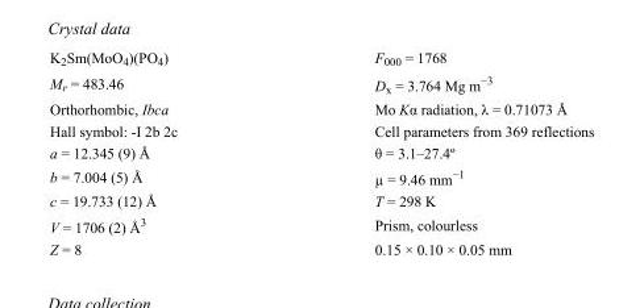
<table><tbody><tr><td>K<sub>2</sub>Sm(MoO<sub>4</sub>)(PO<sub>4</sub>)</td><td>F000 = 1768</td></tr><tr><td>M<sub>r</sub> = 483.46</td><td>D<sub>x</sub> = 3.764 Mg m<sup>−3</sup></td></tr><tr><td>Orthorhombic, Ibca</td><td>Mo Kα radiation, λ = 0.71073 Å</td></tr><tr><td>Hall symbol: -I 2b 2c</td><td>Cell parameters from 369 reflections</td></tr><tr><td>a = 12.345 (9) Å</td><td>θ = 3.1–27.4º</td></tr><tr><td>b = 7.004 (5) Å</td><td>µ = 9.46 mm<sup>−1</sup></td></tr><tr><td>c = 19.733 (12) Å</td><td>T = 298 K</td></tr><tr><td>V = 1706 (2) Å<sup>3</sup></td><td>Prism, colourless</td></tr><tr><td>Z = 8</td><td>0.15 × 0.10 × 0.05 mm</td></tr></tbody></table>